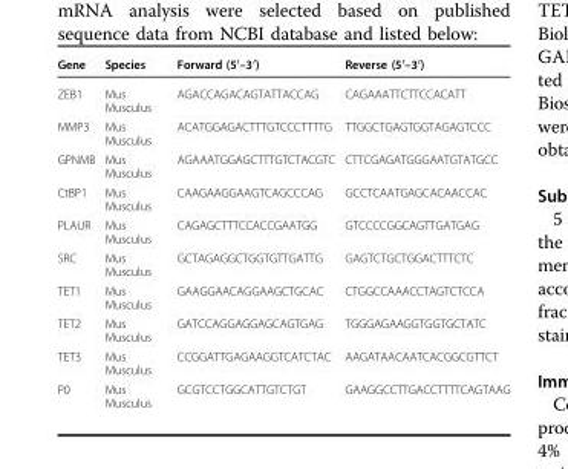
<table><thead><tr><td>Gene</td><td>Species</td><td>Forward (5′–3′)</td><td>Reverse (5′–3′)</td></tr></thead><tbody><tr><td>ZEB1</td><td>Mus Musculus</td><td>AGACCAGACAGTATTACCAG</td><td>CAGAAATTCTTCCACATT</td></tr><tr><td>MMP3</td><td>Mus Musculus</td><td>ACATGGAGACTTTGTCCCTTTTG</td><td>TTGGCTGAGTGGTAGAGTCCC</td></tr><tr><td>GPNMB</td><td>Mus Musculus</td><td>AGAAATGGAGCTTTGTCTACGTC</td><td>CTTCGAGATGGGAATGTATGCC</td></tr><tr><td>CtBP1</td><td>Mus Musculus</td><td>CAAGAAGGAAGTCAGCCCAG</td><td>GCCTCAATGAGCACAACCAC</td></tr><tr><td>PLAUR</td><td>Mus Musculus</td><td>CAGAGCTTTCCACCGAATGG</td><td>GTCCCCGGCAGTTGATGAG</td></tr><tr><td>SRC</td><td>Mus Musculus</td><td>GCTAGAGGCTGGTGTTGATTG</td><td>GAGTCTGCTGGACTTTCTC</td></tr><tr><td>TET1</td><td>Mus Musculus</td><td>GAAGGAACAGGAAGCTGCAC</td><td>CTGGCCAAACCTAGTCTCCA</td></tr><tr><td>TET2</td><td>Mus Musculus</td><td>GATCCAGGAGGAGCAGTGAG</td><td>TGGGAGAAGGTGGTGCTATC</td></tr><tr><td>TET3</td><td>Mus Musculus</td><td>CCGGATTGAGAAGGTCATCTAC</td><td>AAGATAACAATCACGGCGTTCT</td></tr><tr><td>P0</td><td>Mus Musculus</td><td>GCGTCCTGGCATTGTCTGT</td><td>GAAGGCCTTGACCTTTTCAGTAAG</td></tr></tbody></table>